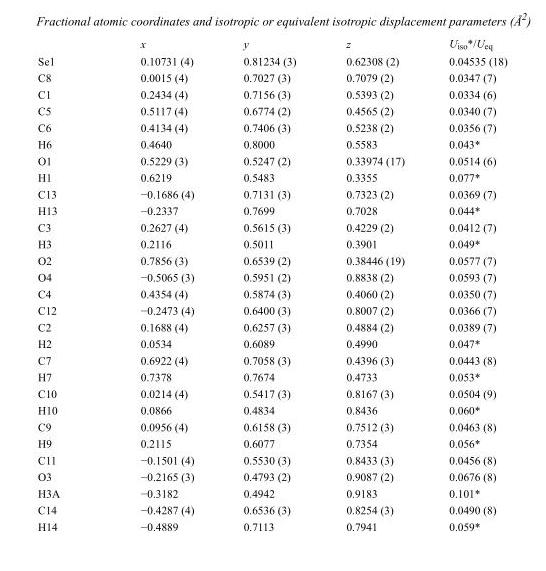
<table><thead><tr><td></td><td>x</td><td>y</td><td>z</td><td>U<sub>iso</sub>*/U<sub>eq</sub></td></tr></thead><tbody><tr><td>Se1</td><td>0.10731 (4)</td><td>0.81234 (3)</td><td>0.62308 (2)</td><td>0.04535 (18)</td></tr><tr><td>C8</td><td>0.0015 (4)</td><td>0.7027 (3)</td><td>0.7079 (2)</td><td>0.0347 (7)</td></tr><tr><td>C1</td><td>0.2434 (4)</td><td>0.7156 (3)</td><td>0.5393 (2)</td><td>0.0334 (6)</td></tr><tr><td>C5</td><td>0.5117 (4)</td><td>0.6774 (2)</td><td>0.4565 (2)</td><td>0.0340 (7)</td></tr><tr><td>C6</td><td>0.4134 (4)</td><td>0.7406 (3)</td><td>0.5238 (2)</td><td>0.0356 (7)</td></tr><tr><td>H6</td><td>0.4640</td><td>0.8000</td><td>0.5583</td><td>0.043*</td></tr><tr><td>O1</td><td>0.5229 (3)</td><td>0.5247 (2)</td><td>0.33974 (17)</td><td>0.0514 (6)</td></tr><tr><td>H1</td><td>0.6219</td><td>0.5483</td><td>0.3355</td><td>0.077*</td></tr><tr><td>C13</td><td>−0.1686 (4)</td><td>0.7131 (3)</td><td>0.7323 (2)</td><td>0.0369 (7)</td></tr><tr><td>H13</td><td>−0.2337</td><td>0.7699</td><td>0.7028</td><td>0.044*</td></tr><tr><td>C3</td><td>0.2627 (4)</td><td>0.5615 (3)</td><td>0.4229 (2)</td><td>0.0412 (7)</td></tr><tr><td>H3</td><td>0.2116</td><td>0.5011</td><td>0.3901</td><td>0.049*</td></tr><tr><td>O2</td><td>0.7856 (3)</td><td>0.6539 (2)</td><td>0.38446 (19)</td><td>0.0577 (7)</td></tr><tr><td>O4</td><td>−0.5065 (3)</td><td>0.5951 (2)</td><td>0.8838 (2)</td><td>0.0593 (7)</td></tr><tr><td>C4</td><td>0.4354 (4)</td><td>0.5874 (3)</td><td>0.4060 (2)</td><td>0.0350 (7)</td></tr><tr><td>C12</td><td>−0.2473 (4)</td><td>0.6400 (3)</td><td>0.8007 (2)</td><td>0.0366 (7)</td></tr><tr><td>C2</td><td>0.1688 (4)</td><td>0.6257 (3)</td><td>0.4884 (2)</td><td>0.0389 (7)</td></tr><tr><td>H2</td><td>0.0534</td><td>0.6089</td><td>0.4990</td><td>0.047*</td></tr><tr><td>C7</td><td>0.6922 (4)</td><td>0.7058 (3)</td><td>0.4396 (3)</td><td>0.0443 (8)</td></tr><tr><td>H7</td><td>0.7378</td><td>0.7674</td><td>0.4733</td><td>0.053*</td></tr><tr><td>C10</td><td>0.0214 (4)</td><td>0.5417 (3)</td><td>0.8167 (3)</td><td>0.0504 (9)</td></tr><tr><td>H10</td><td>0.0866</td><td>0.4834</td><td>0.8436</td><td>0.060*</td></tr><tr><td>C9</td><td>0.0956 (4)</td><td>0.6158 (3)</td><td>0.7512 (3)</td><td>0.0463 (8)</td></tr><tr><td>H9</td><td>0.2115</td><td>0.6077</td><td>0.7354</td><td>0.056*</td></tr><tr><td>C11</td><td>−0.1501 (4)</td><td>0.5530 (3)</td><td>0.8433 (3)</td><td>0.0456 (8)</td></tr><tr><td>O3</td><td>−0.2165 (3)</td><td>0.4793 (2)</td><td>0.9087 (2)</td><td>0.0676 (8)</td></tr><tr><td>H3A</td><td>−0.3182</td><td>0.4942</td><td>0.9183</td><td>0.101*</td></tr><tr><td>C14</td><td>−0.4287 (4)</td><td>0.6536 (3)</td><td>0.8254 (3)</td><td>0.0490 (8)</td></tr><tr><td>H14</td><td>−0.4889</td><td>0.7113</td><td>0.7941</td><td>0.059*</td></tr></tbody></table>